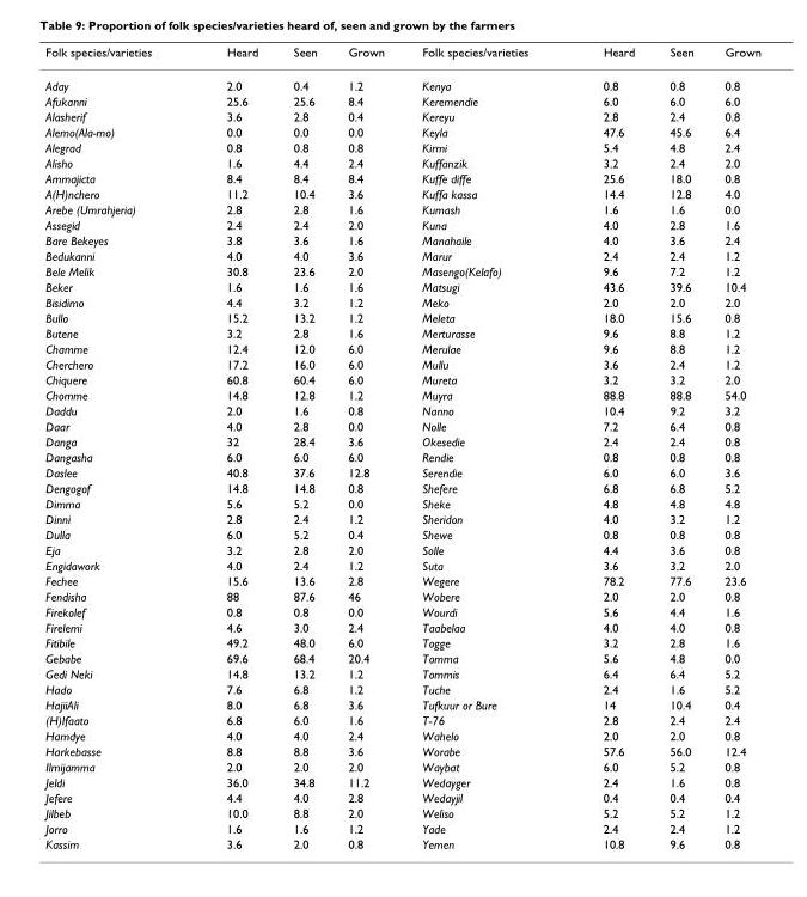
<table><thead><tr><td>Folk species/varieties</td><td>Heard</td><td>Seen</td><td>Grown</td><td>Folk species/varieties</td><td>Heard</td><td>Seen</td><td>Grown</td></tr></thead><tbody><tr><td>Aday</td><td>2.0</td><td>0.4</td><td>1.2</td><td>Kenya</td><td>0.8</td><td>0.8</td><td>0.8</td></tr><tr><td>Afukanni</td><td>25.6</td><td>25.6</td><td>8.4</td><td>Keremendie</td><td>6.0</td><td>6.0</td><td>6.0</td></tr><tr><td>Alasherif</td><td>3.6</td><td>2.8</td><td>0.4</td><td>Kereyu</td><td>2.8</td><td>2.4</td><td>0.8</td></tr><tr><td>Alemo(Ala-mo)</td><td>0.0</td><td>0.0</td><td>0.0</td><td>Keyla</td><td>47.6</td><td>45.6</td><td>6.4</td></tr><tr><td>Alegrad</td><td>0.8</td><td>0.8</td><td>0.8</td><td>Kirmi</td><td>5.4</td><td>4.8</td><td>2.4</td></tr><tr><td>Alisho</td><td>1.6</td><td>4.4</td><td>2.4</td><td>Kuffanzik</td><td>3.2</td><td>2.4</td><td>2.0</td></tr><tr><td>Ammajicta</td><td>8.4</td><td>8.4</td><td>8.4</td><td>Kuffe diffe</td><td>25.6</td><td>18.0</td><td>0.8</td></tr><tr><td>A(H)nchero</td><td>11.2</td><td>10.4</td><td>3.6</td><td>Kuffa kassa</td><td>14.4</td><td>12.8</td><td>4.0</td></tr><tr><td>Arebe (Umrahjeria)</td><td>2.8</td><td>2.8</td><td>1.6</td><td>Kumash</td><td>1.6</td><td>1.6</td><td>0.0</td></tr><tr><td>Assegid</td><td>2.4</td><td>2.4</td><td>2.0</td><td>Kuna</td><td>4.0</td><td>2.8</td><td>1.6</td></tr><tr><td>Bare Bekeyes</td><td>3.8</td><td>3.6</td><td>1.6</td><td>Manahaile</td><td>4.0</td><td>3.6</td><td>2.4</td></tr><tr><td>Bedukanni</td><td>4.0</td><td>4.0</td><td>3.6</td><td>Marur</td><td>2.4</td><td>2.4</td><td>1.2</td></tr><tr><td>Bele Melik</td><td>30.8</td><td>23.6</td><td>2.0</td><td>Masengo(Kelafo)</td><td>9.6</td><td>7.2</td><td>1.2</td></tr><tr><td>Beker</td><td>1.6</td><td>1.6</td><td>1.6</td><td>Matsugi</td><td>43.6</td><td>39.6</td><td>10.4</td></tr><tr><td>Bisidimo</td><td>4.4</td><td>3.2</td><td>1.2</td><td>Meko</td><td>2.0</td><td>2.0</td><td>2.0</td></tr><tr><td>Bullo</td><td>15.2</td><td>13.2</td><td>1.2</td><td>Meleta</td><td>18.0</td><td>15.6</td><td>0.8</td></tr><tr><td>Butene</td><td>3.2</td><td>2.8</td><td>1.6</td><td>Merturasse</td><td>9.6</td><td>8.8</td><td>1.2</td></tr><tr><td>Chamme</td><td>12.4</td><td>12.0</td><td>6.0</td><td>Merulae</td><td>9.6</td><td>8.8</td><td>1.2</td></tr><tr><td>Cherchero</td><td>17.2</td><td>16.0</td><td>6.0</td><td>Mullu</td><td>3.6</td><td>2.4</td><td>1.2</td></tr><tr><td>Chiquere</td><td>60.8</td><td>60.4</td><td>6.0</td><td>Mureta</td><td>3.2</td><td>3.2</td><td>2.0</td></tr><tr><td>Chomme</td><td>14.8</td><td>12.8</td><td>1.2</td><td>Muyra</td><td>88.8</td><td>88.8</td><td>54.0</td></tr><tr><td>Daddu</td><td>2.0</td><td>1.6</td><td>0.8</td><td>Nanno</td><td>10.4</td><td>9.2</td><td>3.2</td></tr><tr><td>Daar</td><td>4.0</td><td>2.8</td><td>0.0</td><td>Nolle</td><td>7.2</td><td>6.4</td><td>0.8</td></tr><tr><td>Danga</td><td>32</td><td>28.4</td><td>3.6</td><td>Okesedie</td><td>2.4</td><td>2.4</td><td>0.8</td></tr><tr><td>Dangasha</td><td>6.0</td><td>6.0</td><td>6.0</td><td>Rendie</td><td>0.8</td><td>0.8</td><td>0.8</td></tr><tr><td>Daslee</td><td>40.8</td><td>37.6</td><td>12.8</td><td>Serendie</td><td>6.0</td><td>6.0</td><td>3.6</td></tr><tr><td>Dengogof</td><td>14.8</td><td>14.8</td><td>0.8</td><td>Shefere</td><td>6.8</td><td>6.8</td><td>5.2</td></tr><tr><td>Dimma</td><td>5.6</td><td>5.2</td><td>0.0</td><td>Sheke</td><td>4.8</td><td>4.8</td><td>4.8</td></tr><tr><td>Dinni</td><td>2.8</td><td>2.4</td><td>1.2</td><td>Sheridon</td><td>4.0</td><td>3.2</td><td>1.2</td></tr><tr><td>Dulla</td><td>6.0</td><td>5.2</td><td>0.4</td><td>Shewe</td><td>0.8</td><td>0.8</td><td>0.8</td></tr><tr><td>Eja</td><td>3.2</td><td>2.8</td><td>2.0</td><td>Solle</td><td>4.4</td><td>3.6</td><td>0.8</td></tr><tr><td>Engidawork</td><td>4.0</td><td>2.4</td><td>1.2</td><td>Suta</td><td>3.6</td><td>3.2</td><td>2.0</td></tr><tr><td>Fechee</td><td>15.6</td><td>13.6</td><td>2.8</td><td>Wegere</td><td>78.2</td><td>77.6</td><td>23.6</td></tr><tr><td>Fendisha</td><td>88</td><td>87.6</td><td>46</td><td>Wobere</td><td>2.0</td><td>2.0</td><td>0.8</td></tr><tr><td>Firekolef</td><td>0.8</td><td>0.8</td><td>0.0</td><td>Wourdi</td><td>5.6</td><td>4.4</td><td>1.6</td></tr><tr><td>Firelemi</td><td>4.6</td><td>3.0</td><td>2.4</td><td>Taabelaa</td><td>4.0</td><td>4.0</td><td>0.8</td></tr><tr><td>Fitibile</td><td>49.2</td><td>48.0</td><td>6.0</td><td>Togge</td><td>3.2</td><td>2.8</td><td>1.6</td></tr><tr><td>Gebabe</td><td>69.6</td><td>68.4</td><td>20.4</td><td>Tomma</td><td>5.6</td><td>4.8</td><td>0.0</td></tr><tr><td>Gedi Neki</td><td>14.8</td><td>13.2</td><td>1.2</td><td>Tommis</td><td>6.4</td><td>6.4</td><td>5.2</td></tr><tr><td>Hado</td><td>7.6</td><td>6.8</td><td>1.2</td><td>Tuche</td><td>2.4</td><td>1.6</td><td>5.2</td></tr><tr><td>HajiiAli</td><td>8.0</td><td>6.8</td><td>3.6</td><td>Tufkuur or Bure</td><td>14</td><td>10.4</td><td>0.4</td></tr><tr><td>(H)Ifaato</td><td>6.8</td><td>6.0</td><td>1.6</td><td>T-76</td><td>2.8</td><td>2.4</td><td>2.4</td></tr><tr><td>Hamdye</td><td>4.0</td><td>4.0</td><td>2.4</td><td>Wahelo</td><td>2.0</td><td>2.0</td><td>0.8</td></tr><tr><td>Harkebasse</td><td>8.8</td><td>8.8</td><td>3.6</td><td>Worabe</td><td>57.6</td><td>56.0</td><td>12.4</td></tr><tr><td>Ilmijamma</td><td>2.0</td><td>2.0</td><td>2.0</td><td>Waybat</td><td>6.0</td><td>5.2</td><td>0.8</td></tr><tr><td>Jeldi</td><td>36.0</td><td>34.8</td><td>11.2</td><td>Wedayger</td><td>2.4</td><td>1.6</td><td>0.8</td></tr><tr><td>Jefere</td><td>4.4</td><td>4.0</td><td>2.8</td><td>Wedayjil</td><td>0.4</td><td>0.4</td><td>0.4</td></tr><tr><td>Jilbeb</td><td>10.0</td><td>8.8</td><td>2.0</td><td>Weliso</td><td>5.2</td><td>5.2</td><td>1.2</td></tr><tr><td>Jorro</td><td>1.6</td><td>1.6</td><td>1.2</td><td>Yade</td><td>2.4</td><td>2.4</td><td>1.2</td></tr><tr><td>Kassim</td><td>3.6</td><td>2.0</td><td>0.8</td><td>Yemen</td><td>10.8</td><td>9.6</td><td>0.8</td></tr></tbody></table>